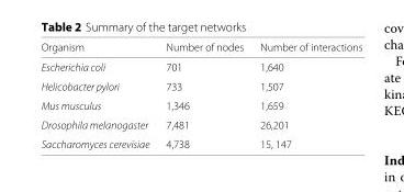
<table><thead><tr><td>Organism</td><td>Number of nodes</td><td>Number of interactions</td></tr></thead><tbody><tr><td>Escherichia coli</td><td>701</td><td>1,640</td></tr><tr><td>Helicobacter pylori</td><td>733</td><td>1,507</td></tr><tr><td>Mus musculus</td><td>1,346</td><td>1,659</td></tr><tr><td>Drosophila melanogaster</td><td>7,481</td><td>26,201</td></tr><tr><td>Saccharomyces cerevisiae</td><td>4,738</td><td>15, 147</td></tr></tbody></table>